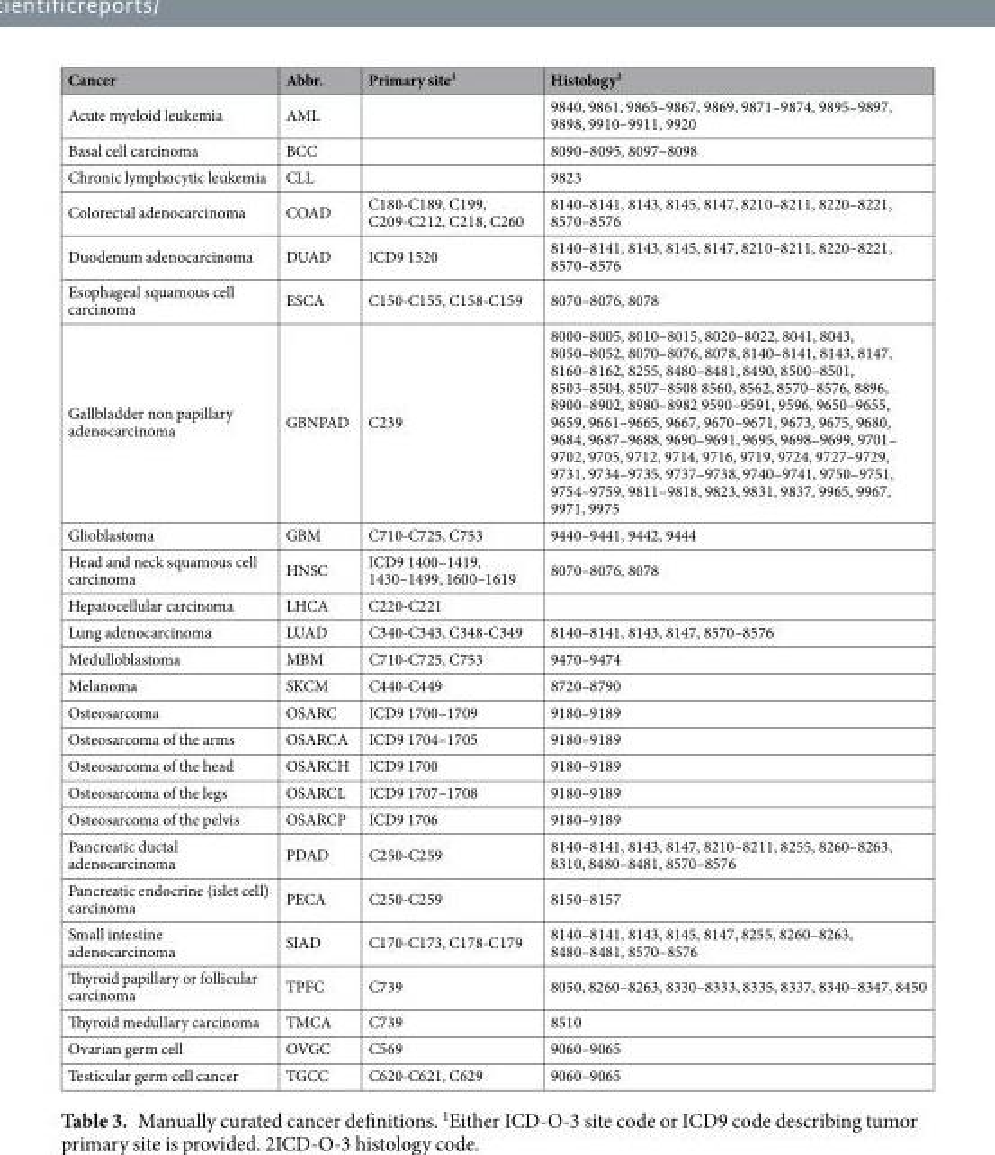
<table><thead><tr><td>Cancer</td><td>Abbr.</td><td>Primary site<sup>1</sup></td><td>Histology<sup>2</sup></td></tr></thead><tbody><tr><td>Acute myeloid leukemia</td><td>AML</td><td></td><td>9840, 9861, 9865–9867, 9869, 9871–9874, 9895–9897, 9898, 9910–9911, 9920</td></tr><tr><td>Basal cell carcinoma</td><td>BCC</td><td></td><td>8090–8095, 8097–8098</td></tr><tr><td>Chronic lymphocytic leukemia</td><td>CLL</td><td></td><td>9823</td></tr><tr><td>Colorectal adenocarcinoma</td><td>COAD</td><td>C180-C189, C199, C209-C212, C218, C260</td><td>8140–8141, 8143, 8145, 8147, 8210–8211, 8220–8221, 8570–8576</td></tr><tr><td>Duodenum adenocarcinoma</td><td>DUAD</td><td>ICD9 1520</td><td>8140–8141, 8143, 8145, 8147, 8210–8211, 8220–8221, 8570–8576</td></tr><tr><td>Esophageal squamous cell carcinoma</td><td>ESCA</td><td>C150-C155, C158-C159</td><td>8070–8076, 8078</td></tr><tr><td>Gallbladder non papillary adenocarcinoma</td><td>GBNPAD</td><td>C239</td><td>8000–8005, 8010–8015, 8020–8022, 8041, 8043, 8050–8052, 8070–8076, 8078, 8140–8141, 8143, 8147, 8160–8162, 8255, 8480–8481, 8490, 8500–8501, 8503–8504, 8507–8508 8560, 8562, 8570–8576, 8896, 8900–8902, 8980–8982 9590–9591, 9596, 9650–9655, 9659, 9661–9665, 9667, 9670–9671, 9673, 9675, 9680, 9684, 9687–9688, 9690–9691, 9695, 9698–9699, 9701– 9702, 9705, 9712, 9714, 9716, 9719, 9724, 9727–9729, 9731, 9734–9735, 9737–9738, 9740–9741, 9750–9751, 9754–9759, 9811–9818, 9823, 9831, 9837, 9965, 9967, 9971, 9975</td></tr><tr><td>Glioblastoma</td><td>GBM</td><td>C710-C725, C753</td><td>9440–9441, 9442, 9444</td></tr><tr><td>Head and neck squamous cell carcinoma</td><td>HNSC</td><td>ICD9 1400–1419, 1430–1499, 1600–1619</td><td>8070–8076, 8078</td></tr><tr><td>Hepatocellular carcinoma</td><td>LHCA</td><td>C220-C221</td><td></td></tr><tr><td>Lung adenocarcinoma</td><td>LUAD</td><td>C340-C343, C348-C349</td><td>8140–8141, 8143, 8147, 8570–8576</td></tr><tr><td>Medulloblastoma</td><td>MBM</td><td>C710-C725, C753</td><td>9470–9474</td></tr><tr><td>Melanoma</td><td>SKCM</td><td>C440-C449</td><td>8720–8790</td></tr><tr><td>Osteosarcoma</td><td>OSARC</td><td>ICD9 1700–1709</td><td>9180–9189</td></tr><tr><td>Osteosarcoma of the arms</td><td>OSARCA</td><td>ICD9 1704–1705</td><td>9180–9189</td></tr><tr><td>Osteosarcoma of the head</td><td>OSARCH</td><td>ICD9 1700</td><td>9180–9189</td></tr><tr><td>Osteosarcoma of the legs</td><td>OSARCL</td><td>ICD9 1707–1708</td><td>9180–9189</td></tr><tr><td>Osteosarcoma of the pelvis</td><td>OSARCP</td><td>ICD9 1706</td><td>9180–9189</td></tr><tr><td>Pancreatic ductal adenocarcinoma</td><td>PDAD</td><td>C250-C259</td><td>8140–8141, 8143, 8147, 8210–8211, 8255, 8260–8263, 8310, 8480–8481, 8570–8576</td></tr><tr><td>Pancreatic endocrine (islet cell) carcinoma</td><td>PECA</td><td>C250-C259</td><td>8150–8157</td></tr><tr><td>Small intestine adenocarcinoma</td><td>SIAD</td><td>C170-C173, C178-C179</td><td>8140–8141, 8143, 8145, 8147, 8255, 8260–8263, 8480–8481, 8570–8576</td></tr><tr><td>Thyroid papillary or follicular carcinoma</td><td>TPFC</td><td>C739</td><td>8050, 8260–8263, 8330–8333, 8335, 8337, 8340–8347, 8450</td></tr><tr><td>Thyroid medullary carcinoma</td><td>TMCA</td><td>C739</td><td>8510</td></tr><tr><td>Ovarian germ cell</td><td>OVGC</td><td>C569</td><td>9060–9065</td></tr><tr><td>Testicular germ cell cancer</td><td>TGCC</td><td>C620-C621, C629</td><td>9060–9065</td></tr></tbody></table>